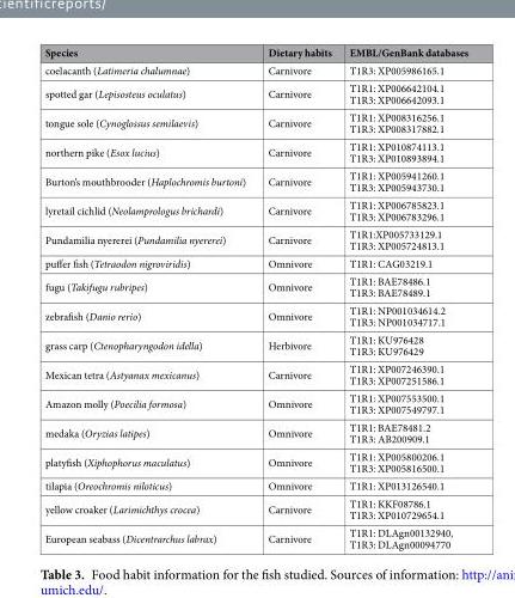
<table><thead><tr><td>Species</td><td>Dietary habits</td><td>EMBL/GenBank databases</td></tr></thead><tbody><tr><td>coelacanth (Latimeria chalumnae)</td><td>Carnivore</td><td>T1R3: XP005986165.1</td></tr><tr><td>spotted gar (Lepisosteus oculatus)</td><td>Carnivore</td><td>T1R1: XP006642104.1 T1R3: XP006642093.1</td></tr><tr><td>tongue sole (Cynoglossus semilaevis)</td><td>Carnivore</td><td>T1R1: XP008316256.1 T1R3: XP008317882.1</td></tr><tr><td>northern pike (Esox lucius)</td><td>Carnivore</td><td>T1R1: XP010874113.1 T1R3: XP010893894.1</td></tr><tr><td>Burton’s mouthbrooder (Haplochromis burtoni)</td><td>Carnivore</td><td>T1R1: XP005941260.1 T1R3: XP005943730.1</td></tr><tr><td>lyretail cichlid (Neolamprologus brichardi)</td><td>Carnivore</td><td>T1R1: XP006785823.1 T1R3: XP006783296.1</td></tr><tr><td>Pundamilia nyererei (Pundamilia nyererei)</td><td>Carnivore</td><td>T1R1:XP005733129.1 T1R3: XP005724813.1</td></tr><tr><td>puffer fish (Tetraodon nigroviridis)</td><td>Omnivore</td><td>T1R1: CAG03219.1</td></tr><tr><td>fugu (Takifugu rubripes)</td><td>Omnivore</td><td>T1R1: BAE78486.1 T1R3: BAE78489.1</td></tr><tr><td>zebrafish (Danio rerio)</td><td>Omnivore</td><td>T1R1: NP001034614.2 T1R3: NP001034717.1</td></tr><tr><td>grass carp (Ctenopharyngodon idella)</td><td>Herbivore</td><td>T1R1: KU976428 T1R3: KU976429</td></tr><tr><td>Mexican tetra (Astyanax mexicanus)</td><td>Carnivore</td><td>T1R1: XP007246390.1 T1R3: XP007251586.1</td></tr><tr><td>Amazon molly (Poecilia formosa)</td><td>Omnivore</td><td>T1R1: XP007553500.1 T1R3: XP007549797.1</td></tr><tr><td>medaka (Oryzias latipes)</td><td>Omnivore</td><td>T1R1: BAE78481.2 T1R3: AB200909.1</td></tr><tr><td>platyfish (Xiphophorus maculatus)</td><td>Omnivore</td><td>T1R1: XP005800206.1 T1R3: XP005816500.1</td></tr><tr><td>tilapia (Oreochromis niloticus)</td><td>Omnivore</td><td>T1R1: XP013126540.1</td></tr><tr><td>yellow croaker (Larimichthys crocea)</td><td>Carnivore</td><td>T1R1: KKF08786.1 T1R3: XP010729654.1</td></tr><tr><td>European seabass (Dicentrarchus labrax)</td><td>Carnivore</td><td>T1R1: DLAgn00132940, T1R3: DLAgn00094770</td></tr></tbody></table>